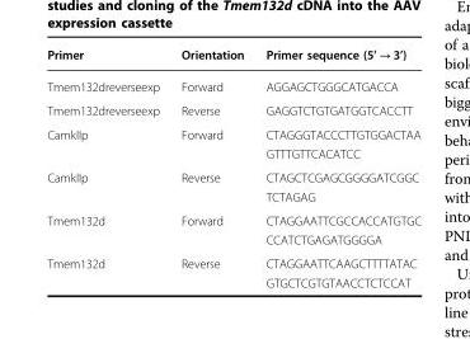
<table><thead><tr><td>Primer</td><td>Orientation</td><td>Primer sequence (5’ → 3’)</td></tr></thead><tbody><tr><td>Tmem132dreverseexp</td><td>Forward</td><td>AGGAGCTGGGCATGACCA</td></tr><tr><td>Tmem132dreverseexp</td><td>Reverse</td><td>GAGGTCTGTGATGGTCACCTT</td></tr><tr><td>CamkIIp</td><td>Forward</td><td>CTAGGGTACCCTTGTGGACTAA GTTTGTTCACATCC</td></tr><tr><td>CamkIIp</td><td>Reverse</td><td>CTAGCTCGAGCGGGGATCGGC TCTAGAG</td></tr><tr><td>Tmem132d</td><td>Forward</td><td>CTAGGAATTCGCCACCATGTGC CCATCTGAGATGGGGA</td></tr><tr><td>Tmem132d</td><td>Reverse</td><td>CTAGGAATTCAAGCTTTTATAC GTGCTCGTGTAACCTCTCCAT</td></tr></tbody></table>